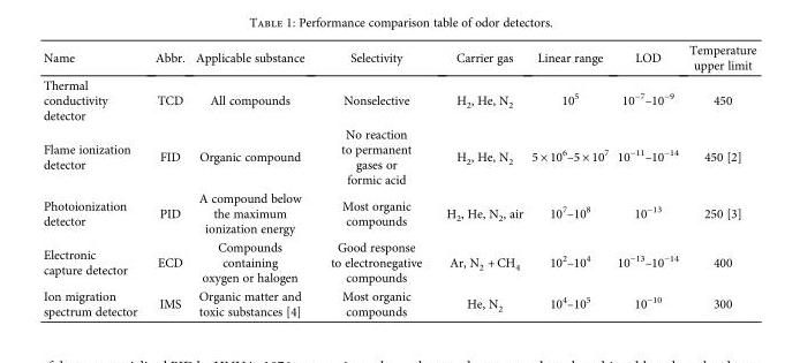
<table><thead><tr><td>Name</td><td>Abbr.</td><td>Applicable substance</td><td>Selectivity</td><td>Carrier gas</td><td>Linear range</td><td>LOD</td><td>Temperature upper limit</td></tr></thead><tbody><tr><td>Thermal conductivity detector</td><td>TCD</td><td>All compounds</td><td>Nonselective</td><td>H<sub>2</sub>, He, N<sub>2</sub></td><td>10<sup>5</sup></td><td>10<sup>−7</sup>–10<sup>−9</sup></td><td>450</td></tr><tr><td>Flame ionization detector</td><td>FID</td><td>Organic compound</td><td>No reaction to permanent gases or formic acid</td><td>H<sub>2</sub>, He, N<sub>2</sub></td><td>5 × 10<sup>6</sup>–5 × 10<sup>7</sup></td><td>10<sup>−11</sup>–10<sup>−14</sup></td><td>450 [2]</td></tr><tr><td>Photoionization detector</td><td>PID</td><td>A compound below the maximum ionization energy</td><td>Most organic compounds</td><td>H<sub>2</sub>, He, N<sub>2</sub>, air</td><td>10<sup>7</sup>–10<sup>8</sup></td><td>10<sup>−13</sup></td><td>250 [3]</td></tr><tr><td>Electronic capture detector</td><td>ECD</td><td>Compounds containing oxygen or halogen</td><td>Good response to electronegative compounds</td><td>Ar, N<sub>2</sub> + CH<sub>4</sub></td><td>10<sup>2</sup>–10<sup>4</sup></td><td>10<sup>−13</sup>–10<sup>−14</sup></td><td>400</td></tr><tr><td>Ion migration spectrum detector</td><td>IMS</td><td>Organic matter and toxic substances [4]</td><td>Most organic compounds</td><td>He, N<sub>2</sub></td><td>10<sup>4</sup>–10<sup>5</sup></td><td>10<sup>−10</sup></td><td>300</td></tr></tbody></table>